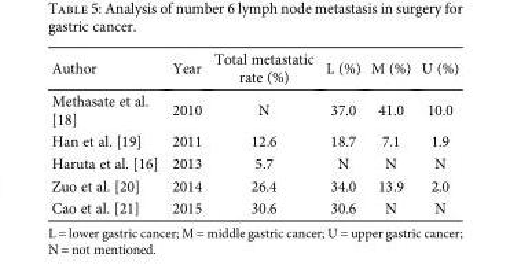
<table><thead><tr><td>Author</td><td>Year</td><td>Total metastatic rate (%)</td><td>L (%)</td><td>M (%)</td><td>U (%)</td></tr></thead><tbody><tr><td>Methasate et al. [18]</td><td>2010</td><td>N</td><td>37.0</td><td>41.0</td><td>10.0</td></tr><tr><td>Han et al. [19]</td><td>2011</td><td>12.6</td><td>18.7</td><td>7.1</td><td>1.9</td></tr><tr><td>Haruta et al. [16]</td><td>2013</td><td>5.7</td><td>N</td><td>N</td><td>N</td></tr><tr><td>Zuo et al. [20]</td><td>2014</td><td>26.4</td><td>34.0</td><td>13.9</td><td>2.0</td></tr><tr><td>Cao et al. [21]</td><td>2015</td><td>30.6</td><td>30.6</td><td>N</td><td>N</td></tr></tbody></table>